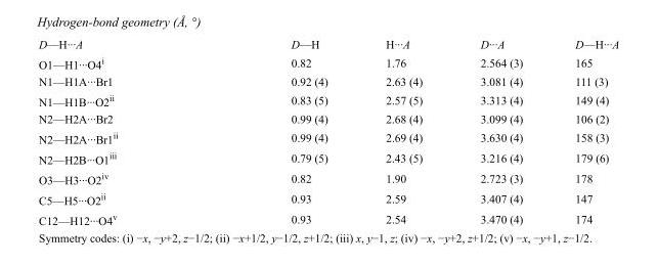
<table><tbody><tr><td>D—H···A</td><td>D—H</td><td>H···A</td><td>D···A</td><td>D—H···A</td></tr><tr><td>O1—H1···O4<sup>i</sup></td><td>0.82</td><td>1.76</td><td>2.564 (3)</td><td>165</td></tr><tr><td>N1—H1A···Br1</td><td>0.92 (4)</td><td>2.63 (4)</td><td>3.081 (4)</td><td>111 (3)</td></tr><tr><td>N1—H1B···O2<sup>ii</sup></td><td>0.83 (5)</td><td>2.57 (5)</td><td>3.313 (4)</td><td>149 (4)</td></tr><tr><td>N2—H2A···Br2</td><td>0.99 (4)</td><td>2.68 (4)</td><td>3.099 (4)</td><td>106 (2)</td></tr><tr><td>N2—H2A···Br1<sup>ii</sup></td><td>0.99 (4)</td><td>2.69 (4)</td><td>3.630 (4)</td><td>158 (3)</td></tr><tr><td>N2—H2B···O1<sup>iii</sup></td><td>0.79 (5)</td><td>2.43 (5)</td><td>3.216 (4)</td><td>179 (6)</td></tr><tr><td>O3—H3···O2<sup>iv</sup></td><td>0.82</td><td>1.90</td><td>2.723 (3)</td><td>178</td></tr><tr><td>C5—H5···O2<sup>ii</sup></td><td>0.93</td><td>2.59</td><td>3.407 (4)</td><td>147</td></tr><tr><td>C12—H12···O4<sup>v</sup></td><td>0.93</td><td>2.54</td><td>3.470 (4)</td><td>174</td></tr></tbody></table>